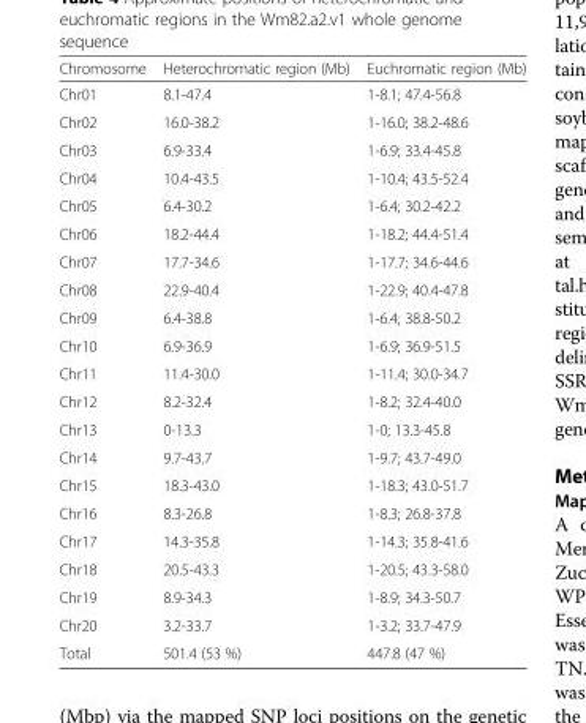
<table><thead><tr><td>Chromosome</td><td>Heterochromatic region (Mb)</td><td>Euchromatic region (Mb)</td></tr></thead><tbody><tr><td>Chr01</td><td>8.1-47.4</td><td>1-8.1; 47.4-56.8</td></tr><tr><td>Chr02</td><td>16.0-38.2</td><td>1-16.0; 38.2-48.6</td></tr><tr><td>Chr03</td><td>6.9-33.4</td><td>1-6.9; 33.4-45.8</td></tr><tr><td>Chr04</td><td>10.4-43.5</td><td>1-10.4; 43.5-52.4</td></tr><tr><td>Chr05</td><td>6.4-30.2</td><td>1-6.4; 30.2-42.2</td></tr><tr><td>Chr06</td><td>18.2-44.4</td><td>1-18.2; 44.4-51.4</td></tr><tr><td>Chr07</td><td>17.7-34.6</td><td>1-17.7; 34.6-44.6</td></tr><tr><td>Chr08</td><td>22.9-40.4</td><td>1-22.9; 40.4-47.8</td></tr><tr><td>Chr09</td><td>6.4-38.8</td><td>1-6.4; 38.8-50.2</td></tr><tr><td>Chr10</td><td>6.9-36.9</td><td>1-6.9; 36.9-51.5</td></tr><tr><td>Chr11</td><td>11.4-30.0</td><td>1-11.4; 30.0-34.7</td></tr><tr><td>Chr12</td><td>8.2-32.4</td><td>1-8.2; 32.4-40.0</td></tr><tr><td>Chr13</td><td>0-13.3</td><td>1-0; 13.3-45.8</td></tr><tr><td>Chr14</td><td>9.7-43.7</td><td>1-9.7; 43.7-49.0</td></tr><tr><td>Chr15</td><td>18.3-43.0</td><td>1-18.3; 43.0-51.7</td></tr><tr><td>Chr16</td><td>8.3-26.8</td><td>1-8.3; 26.8-37.8</td></tr><tr><td>Chr17</td><td>14.3-35.8</td><td>1-14.3; 35.8-41.6</td></tr><tr><td>Chr18</td><td>20.5-43.3</td><td>1-20.5; 43.3-58.0</td></tr><tr><td>Chr19</td><td>8.9-34.3</td><td>1-8.9; 34.3-50.7</td></tr><tr><td>Chr20</td><td>3.2-33.7</td><td>1-3.2; 33.7-47.9</td></tr><tr><td>Total</td><td>501.4 (53 %)</td><td>447.8 (47 %)</td></tr></tbody></table>